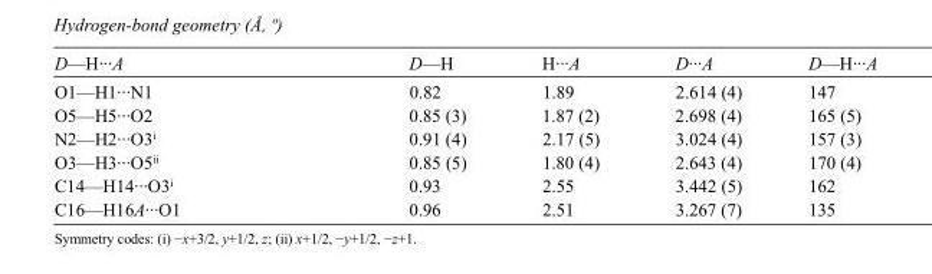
<table><tbody><tr><td>D—H···A</td><td>D—H</td><td>H···A</td><td>D···A</td><td>D—H···A</td></tr><tr><td>O1—H1···N1</td><td>0.82</td><td>1.89</td><td>2.614 (4)</td><td>147</td></tr><tr><td>O5—H5···O2</td><td>0.85 (3)</td><td>1.87 (2)</td><td>2.698 (4)</td><td>165 (5)</td></tr><tr><td>N2—H2···O3<sup>i</sup></td><td>0.91 (4)</td><td>2.17 (5)</td><td>3.024 (4)</td><td>157 (3)</td></tr><tr><td>O3—H3···O5<sup>ii</sup></td><td>0.85 (5)</td><td>1.80 (4)</td><td>2.643 (4)</td><td>170 (4)</td></tr><tr><td>C14—H14···O3<sup>i</sup></td><td>0.93</td><td>2.55</td><td>3.442 (5)</td><td>162</td></tr><tr><td>C16—H16A···O1</td><td>0.96</td><td>2.51</td><td>3.267 (7)</td><td>135</td></tr></tbody></table>